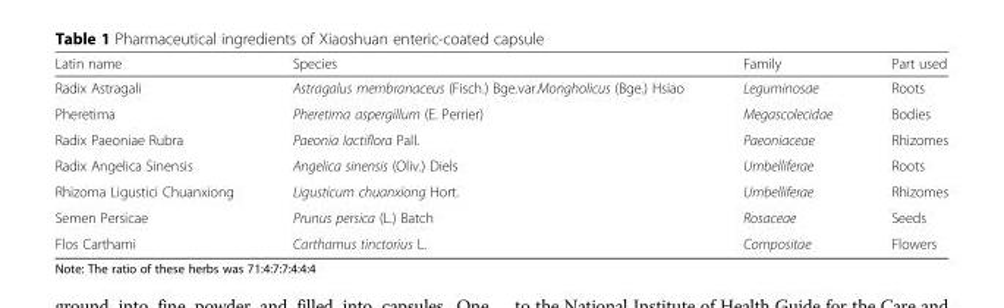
<table><thead><tr><td>Latin name</td><td>Species</td><td>Family</td><td>Part used</td></tr></thead><tbody><tr><td>Radix Astragali</td><td>Astragalus membranaceus (Fisch.) Bge.var.Mongholicus (Bge.) Hsiao</td><td>Leguminosae</td><td>Roots</td></tr><tr><td>Pheretima</td><td>Pheretima aspergillum (E. Perrier)</td><td>Megascolecidae</td><td>Bodies</td></tr><tr><td>Radix Paeoniae Rubra</td><td>Paeonia lactiflora Pall.</td><td>Paeoniaceae</td><td>Rhizomes</td></tr><tr><td>Radix Angelica Sinensis</td><td>Angelica sinensis (Oliv.) Diels</td><td>Umbelliferae</td><td>Roots</td></tr><tr><td>Rhizoma Ligustici Chuanxiong</td><td>Ligusticum chuanxiong Hort.</td><td>Umbelliferae</td><td>Rhizomes</td></tr><tr><td>Semen Persicae</td><td>Prunus persica (L.) Batch</td><td>Rosaceae</td><td>Seeds</td></tr><tr><td>Flos Carthami</td><td>Carthamus tinctorius L.</td><td>Compositae</td><td>Flowers</td></tr></tbody></table>